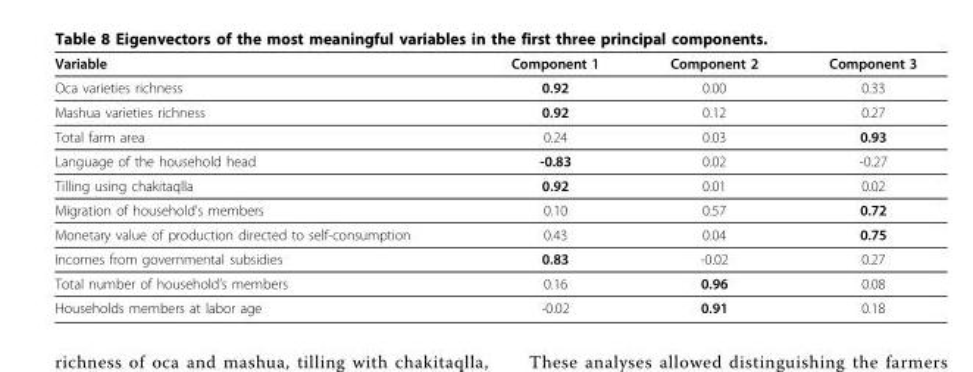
<table><thead><tr><td>Variable</td><td>Component 1</td><td>Component 2</td><td>Component 3</td></tr></thead><tbody><tr><td>Oca varieties richness</td><td>0.92</td><td>0.00</td><td>0.33</td></tr><tr><td>Mashua varieties richness</td><td>0.92</td><td>0.12</td><td>0.27</td></tr><tr><td>Total farm area</td><td>0.24</td><td>0.03</td><td>0.93</td></tr><tr><td>Language of the household head</td><td>-0.83</td><td>0.02</td><td>-0.27</td></tr><tr><td>Tilling using chakitaqlla</td><td>0.92</td><td>0.01</td><td>0.02</td></tr><tr><td>Migration of household’s members</td><td>0.10</td><td>0.57</td><td>0.72</td></tr><tr><td>Monetary value of production directed to self-consumption</td><td>0.43</td><td>0.04</td><td>0.75</td></tr><tr><td>Incomes from governmental subsidies</td><td>0.83</td><td>-0.02</td><td>0.27</td></tr><tr><td>Total number of household’s members</td><td>0.16</td><td>0.96</td><td>0.08</td></tr><tr><td>Households members at labor age</td><td>-0.02</td><td>0.91</td><td>0.18</td></tr></tbody></table>